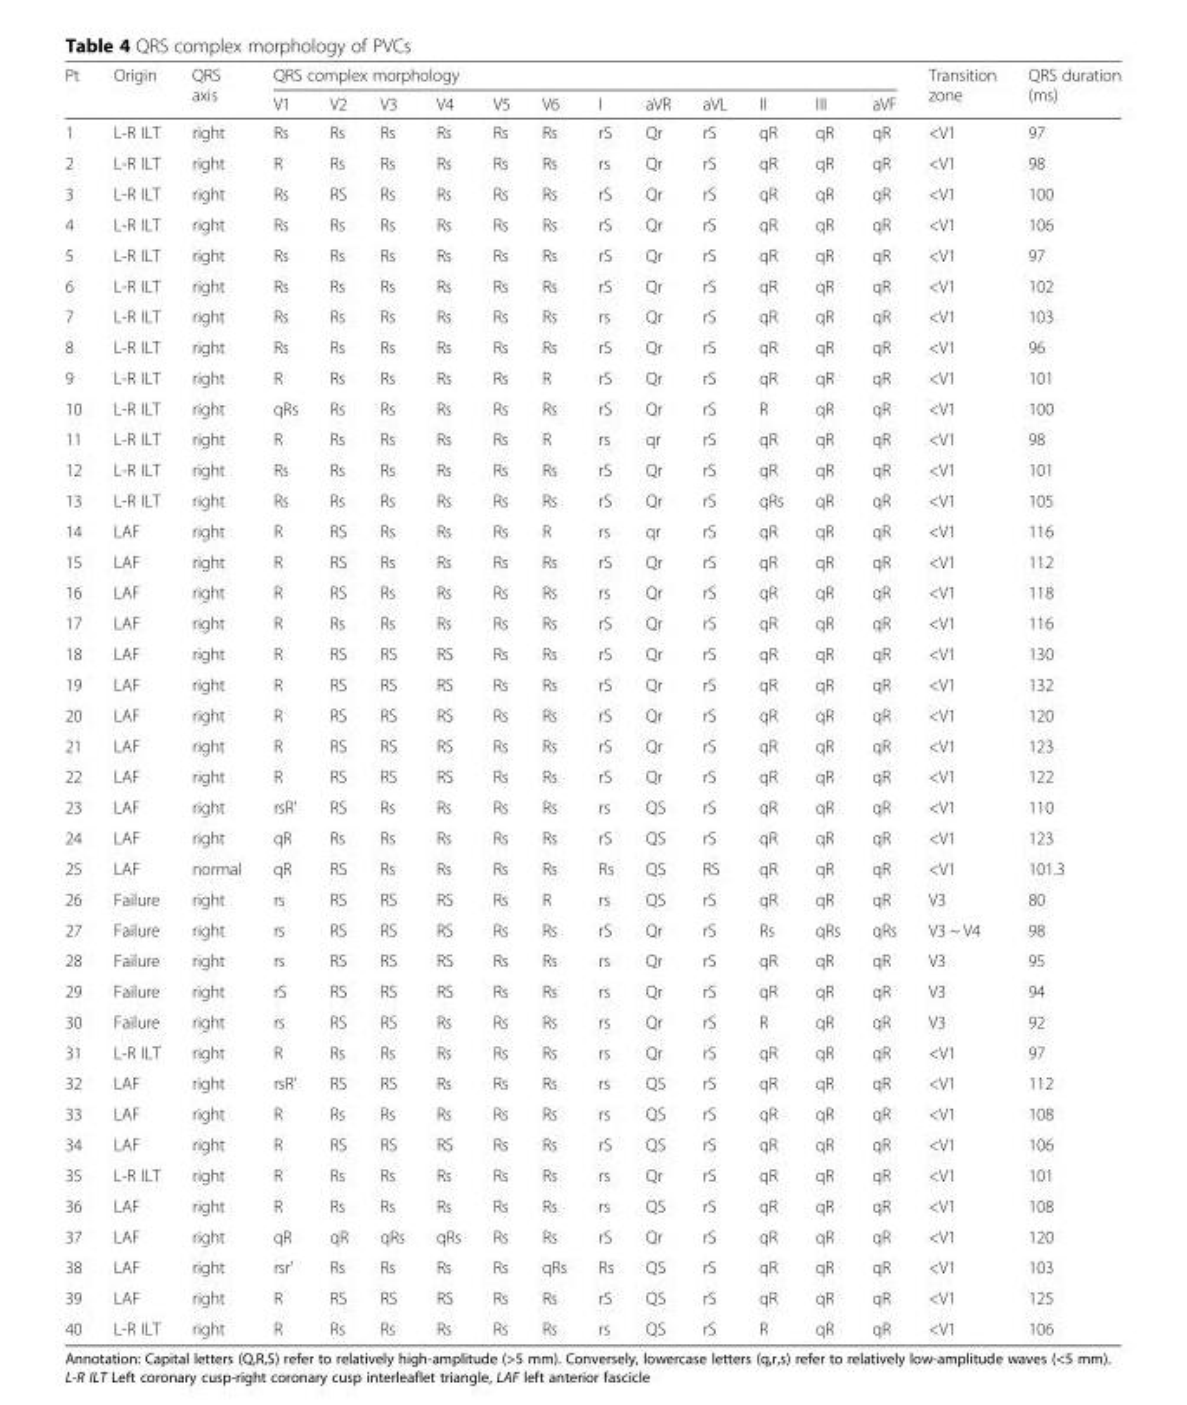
<table><thead><tr><td rowspan="2">Pt</td><td rowspan="2">Origin</td><td rowspan="2">QRS axis</td><td colspan="12">QRS complex morphology</td><td rowspan="2">Transition zone</td><td rowspan="2">QRS duration (ms)</td></tr><tr><td>V1</td><td>V2</td><td>V3</td><td>V4</td><td>V5</td><td>V6</td><td>I</td><td>aVR</td><td>aVL</td><td>II</td><td>III</td><td>aVF</td></tr></thead><tbody><tr><td>1</td><td>L-R ILT</td><td>right</td><td>Rs</td><td>Rs</td><td>Rs</td><td>Rs</td><td>Rs</td><td>Rs</td><td>rS</td><td>Qr</td><td>rS</td><td>qR</td><td>qR</td><td>qR</td><td>&lt;V1</td><td>97</td></tr><tr><td>2</td><td>L-R ILT</td><td>right</td><td>R</td><td>Rs</td><td>Rs</td><td>Rs</td><td>Rs</td><td>Rs</td><td>rs</td><td>Qr</td><td>rS</td><td>qR</td><td>qR</td><td>qR</td><td>&lt;V1</td><td>98</td></tr><tr><td>3</td><td>L-R ILT</td><td>right</td><td>Rs</td><td>RS</td><td>Rs</td><td>Rs</td><td>Rs</td><td>Rs</td><td>rS</td><td>Qr</td><td>rS</td><td>qR</td><td>qR</td><td>qR</td><td>&lt;V1</td><td>100</td></tr><tr><td>4</td><td>L-R ILT</td><td>right</td><td>Rs</td><td>Rs</td><td>Rs</td><td>Rs</td><td>Rs</td><td>Rs</td><td>rS</td><td>Qr</td><td>rS</td><td>qR</td><td>qR</td><td>qR</td><td>&lt;V1</td><td>106</td></tr><tr><td>5</td><td>L-R ILT</td><td>right</td><td>Rs</td><td>Rs</td><td>Rs</td><td>Rs</td><td>Rs</td><td>Rs</td><td>rS</td><td>Qr</td><td>rS</td><td>qR</td><td>qR</td><td>qR</td><td>&lt;V1</td><td>97</td></tr><tr><td>6</td><td>L-R ILT</td><td>right</td><td>Rs</td><td>Rs</td><td>Rs</td><td>Rs</td><td>Rs</td><td>Rs</td><td>rS</td><td>Qr</td><td>rS</td><td>qR</td><td>qR</td><td>qR</td><td>&lt;V1</td><td>102</td></tr><tr><td>7</td><td>L-R ILT</td><td>right</td><td>Rs</td><td>Rs</td><td>Rs</td><td>Rs</td><td>Rs</td><td>Rs</td><td>rs</td><td>Qr</td><td>rS</td><td>qR</td><td>qR</td><td>qR</td><td>&lt;V1</td><td>103</td></tr><tr><td>8</td><td>L-R ILT</td><td>right</td><td>Rs</td><td>Rs</td><td>Rs</td><td>Rs</td><td>Rs</td><td>Rs</td><td>rS</td><td>Qr</td><td>rS</td><td>qR</td><td>qR</td><td>qR</td><td>&lt;V1</td><td>96</td></tr><tr><td>9</td><td>L-R ILT</td><td>right</td><td>R</td><td>Rs</td><td>Rs</td><td>Rs</td><td>Rs</td><td>R</td><td>rS</td><td>Qr</td><td>rS</td><td>qR</td><td>qR</td><td>qR</td><td>&lt;V1</td><td>101</td></tr><tr><td>10</td><td>L-R ILT</td><td>right</td><td>qRs</td><td>Rs</td><td>Rs</td><td>Rs</td><td>Rs</td><td>Rs</td><td>rS</td><td>Qr</td><td>rS</td><td>R</td><td>qR</td><td>qR</td><td>&lt;V1</td><td>100</td></tr><tr><td>11</td><td>L-R ILT</td><td>right</td><td>R</td><td>Rs</td><td>Rs</td><td>Rs</td><td>Rs</td><td>R</td><td>rs</td><td>qr</td><td>rS</td><td>qR</td><td>qR</td><td>qR</td><td>&lt;V1</td><td>98</td></tr><tr><td>12</td><td>L-R ILT</td><td>right</td><td>Rs</td><td>Rs</td><td>Rs</td><td>Rs</td><td>Rs</td><td>Rs</td><td>rS</td><td>Qr</td><td>rS</td><td>qR</td><td>qR</td><td>qR</td><td>&lt;V1</td><td>101</td></tr><tr><td>13</td><td>L-R ILT</td><td>right</td><td>Rs</td><td>Rs</td><td>Rs</td><td>Rs</td><td>Rs</td><td>Rs</td><td>rS</td><td>Qr</td><td>rS</td><td>qRs</td><td>qR</td><td>qR</td><td>&lt;V1</td><td>105</td></tr><tr><td>14</td><td>LAF</td><td>right</td><td>R</td><td>RS</td><td>Rs</td><td>Rs</td><td>Rs</td><td>R</td><td>rs</td><td>qr</td><td>rS</td><td>qR</td><td>qR</td><td>qR</td><td>&lt;V1</td><td>116</td></tr><tr><td>15</td><td>LAF</td><td>right</td><td>R</td><td>RS</td><td>Rs</td><td>Rs</td><td>Rs</td><td>Rs</td><td>rS</td><td>Qr</td><td>rS</td><td>qR</td><td>qR</td><td>qR</td><td>&lt;V1</td><td>112</td></tr><tr><td>16</td><td>LAF</td><td>right</td><td>R</td><td>RS</td><td>Rs</td><td>Rs</td><td>Rs</td><td>Rs</td><td>rs</td><td>Qr</td><td>rS</td><td>qR</td><td>qR</td><td>qR</td><td>&lt;V1</td><td>118</td></tr><tr><td>17</td><td>LAF</td><td>right</td><td>R</td><td>Rs</td><td>Rs</td><td>Rs</td><td>Rs</td><td>Rs</td><td>rS</td><td>Qr</td><td>rS</td><td>qR</td><td>qR</td><td>qR</td><td>&lt;V1</td><td>116</td></tr><tr><td>18</td><td>LAF</td><td>right</td><td>R</td><td>RS</td><td>RS</td><td>RS</td><td>Rs</td><td>Rs</td><td>rS</td><td>Qr</td><td>rS</td><td>qR</td><td>qR</td><td>qR</td><td>&lt;V1</td><td>130</td></tr><tr><td>19</td><td>LAF</td><td>right</td><td>R</td><td>RS</td><td>RS</td><td>RS</td><td>Rs</td><td>Rs</td><td>rS</td><td>Qr</td><td>rS</td><td>qR</td><td>qR</td><td>qR</td><td>&lt;V1</td><td>132</td></tr><tr><td>20</td><td>LAF</td><td>right</td><td>R</td><td>RS</td><td>RS</td><td>RS</td><td>Rs</td><td>Rs</td><td>rS</td><td>Qr</td><td>rS</td><td>qR</td><td>qR</td><td>qR</td><td>&lt;V1</td><td>120</td></tr><tr><td>21</td><td>LAF</td><td>right</td><td>R</td><td>RS</td><td>RS</td><td>RS</td><td>Rs</td><td>Rs</td><td>rS</td><td>Qr</td><td>rS</td><td>qR</td><td>qR</td><td>qR</td><td>&lt;V1</td><td>123</td></tr><tr><td>22</td><td>LAF</td><td>right</td><td>R</td><td>RS</td><td>RS</td><td>RS</td><td>Rs</td><td>Rs</td><td>rS</td><td>Qr</td><td>rS</td><td>qR</td><td>qR</td><td>qR</td><td>&lt;V1</td><td>122</td></tr><tr><td>23</td><td>LAF</td><td>right</td><td>rsR’</td><td>RS</td><td>Rs</td><td>Rs</td><td>Rs</td><td>Rs</td><td>rs</td><td>QS</td><td>rS</td><td>qR</td><td>qR</td><td>qR</td><td>&lt;V1</td><td>110</td></tr><tr><td>24</td><td>LAF</td><td>right</td><td>qR</td><td>Rs</td><td>Rs</td><td>Rs</td><td>Rs</td><td>Rs</td><td>rS</td><td>QS</td><td>rS</td><td>qR</td><td>qR</td><td>qR</td><td>&lt;V1</td><td>123</td></tr><tr><td>25</td><td>LAF</td><td>normal</td><td>qR</td><td>RS</td><td>Rs</td><td>Rs</td><td>Rs</td><td>Rs</td><td>Rs</td><td>QS</td><td>RS</td><td>qR</td><td>qR</td><td>qR</td><td>&lt;V1</td><td>101.3</td></tr><tr><td>26</td><td>Failure</td><td>right</td><td>rs</td><td>RS</td><td>RS</td><td>RS</td><td>Rs</td><td>R</td><td>rs</td><td>QS</td><td>rS</td><td>qR</td><td>qR</td><td>qR</td><td>V3</td><td>80</td></tr><tr><td>27</td><td>Failure</td><td>right</td><td>rs</td><td>RS</td><td>RS</td><td>RS</td><td>Rs</td><td>Rs</td><td>rS</td><td>Qr</td><td>rS</td><td>Rs</td><td>qRs</td><td>qRs</td><td>V3 ~ V4</td><td>98</td></tr><tr><td>28</td><td>Failure</td><td>right</td><td>rs</td><td>RS</td><td>RS</td><td>RS</td><td>Rs</td><td>Rs</td><td>rs</td><td>Qr</td><td>rS</td><td>qR</td><td>qR</td><td>qR</td><td>V3</td><td>95</td></tr><tr><td>29</td><td>Failure</td><td>right</td><td>rS</td><td>RS</td><td>RS</td><td>RS</td><td>Rs</td><td>Rs</td><td>rs</td><td>Qr</td><td>rS</td><td>qR</td><td>qR</td><td>qR</td><td>V3</td><td>94</td></tr><tr><td>30</td><td>Failure</td><td>right</td><td>rs</td><td>RS</td><td>RS</td><td>Rs</td><td>Rs</td><td>Rs</td><td>rs</td><td>Qr</td><td>rS</td><td>R</td><td>qR</td><td>qR</td><td>V3</td><td>92</td></tr><tr><td>31</td><td>L-R ILT</td><td>right</td><td>R</td><td>Rs</td><td>Rs</td><td>Rs</td><td>Rs</td><td>Rs</td><td>rs</td><td>Qr</td><td>rS</td><td>qR</td><td>qR</td><td>qR</td><td>&lt;V1</td><td>97</td></tr><tr><td>32</td><td>LAF</td><td>right</td><td>rsR’</td><td>RS</td><td>RS</td><td>Rs</td><td>Rs</td><td>Rs</td><td>rs</td><td>QS</td><td>rS</td><td>qR</td><td>qR</td><td>qR</td><td>&lt;V1</td><td>112</td></tr><tr><td>33</td><td>LAF</td><td>right</td><td>R</td><td>Rs</td><td>Rs</td><td>Rs</td><td>Rs</td><td>Rs</td><td>rs</td><td>QS</td><td>rS</td><td>qR</td><td>qR</td><td>qR</td><td>&lt;V1</td><td>108</td></tr><tr><td>34</td><td>LAF</td><td>right</td><td>R</td><td>RS</td><td>RS</td><td>RS</td><td>Rs</td><td>Rs</td><td>rS</td><td>QS</td><td>rS</td><td>qR</td><td>qR</td><td>qR</td><td>&lt;V1</td><td>106</td></tr><tr><td>35</td><td>L-R ILT</td><td>right</td><td>R</td><td>Rs</td><td>Rs</td><td>Rs</td><td>Rs</td><td>Rs</td><td>rs</td><td>Qr</td><td>rS</td><td>qR</td><td>qR</td><td>qR</td><td>&lt;V1</td><td>101</td></tr><tr><td>36</td><td>LAF</td><td>right</td><td>R</td><td>Rs</td><td>Rs</td><td>Rs</td><td>Rs</td><td>Rs</td><td>rs</td><td>QS</td><td>rS</td><td>qR</td><td>qR</td><td>qR</td><td>&lt;V1</td><td>108</td></tr><tr><td>37</td><td>LAF</td><td>right</td><td>qR</td><td>qR</td><td>qRs</td><td>qRs</td><td>Rs</td><td>Rs</td><td>rS</td><td>Qr</td><td>rS</td><td>qR</td><td>qR</td><td>qR</td><td>&lt;V1</td><td>120</td></tr><tr><td>38</td><td>LAF</td><td>right</td><td>rsr’</td><td>Rs</td><td>Rs</td><td>Rs</td><td>Rs</td><td>qRs</td><td>Rs</td><td>QS</td><td>rS</td><td>qR</td><td>qR</td><td>qR</td><td>&lt;V1</td><td>103</td></tr><tr><td>39</td><td>LAF</td><td>right</td><td>R</td><td>RS</td><td>RS</td><td>RS</td><td>Rs</td><td>Rs</td><td>rS</td><td>QS</td><td>rS</td><td>qR</td><td>qR</td><td>qR</td><td>&lt;V1</td><td>125</td></tr><tr><td>40</td><td>L-R ILT</td><td>right</td><td>R</td><td>Rs</td><td>Rs</td><td>Rs</td><td>Rs</td><td>Rs</td><td>rs</td><td>QS</td><td>rS</td><td>R</td><td>qR</td><td>qR</td><td>&lt;V1</td><td>106</td></tr></tbody></table>